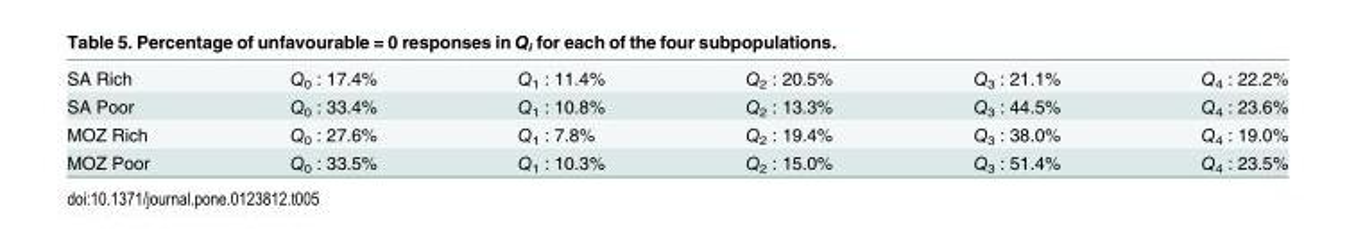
<table><tbody><tr><td>SA Rich</td><td>Q<sub>0</sub> : 17.4%</td><td>Q<sub>1</sub> : 11.4%</td><td>Q<sub>2</sub> : 20.5%</td><td>Q<sub>3</sub> : 21.1%</td><td>Q<sub>4</sub> : 22.2%</td></tr><tr><td>SA Poor</td><td>Q<sub>0</sub> : 33.4%</td><td>Q<sub>1</sub> : 10.8%</td><td>Q<sub>2</sub> : 13.3%</td><td>Q<sub>3</sub> : 44.5%</td><td>Q<sub>4</sub> : 23.6%</td></tr><tr><td>MOZ Rich</td><td>Q<sub>0</sub> : 27.6%</td><td>Q<sub>1</sub> : 7.8%</td><td>Q<sub>2</sub> : 19.4%</td><td>Q<sub>3</sub> : 38.0%</td><td>Q<sub>4</sub> : 19.0%</td></tr><tr><td>MOZ Poor</td><td>Q<sub>0</sub> : 33.5%</td><td>Q<sub>1</sub> : 10.3%</td><td>Q<sub>2</sub> : 15.0%</td><td>Q<sub>3</sub> : 51.4%</td><td>Q<sub>4</sub> : 23.5%</td></tr></tbody></table>